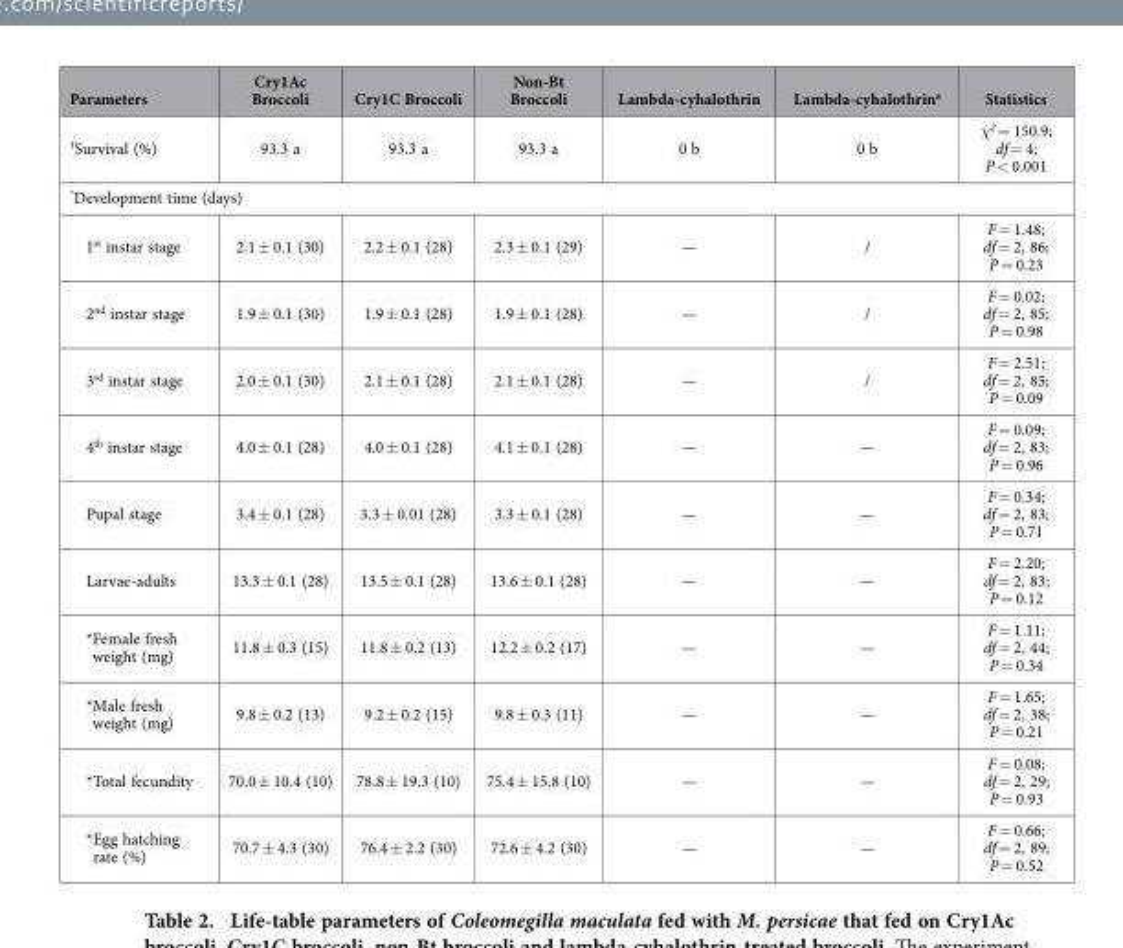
<table><thead><tr><td>Parameters</td><td>Cry1Ac Broccoli</td><td>Cry1C Broccoli</td><td>Non-Bt Broccoli</td><td>Lambda-cyhalothrin</td><td>Lambda-cyhalothrin<sup>a</sup></td><td>Statistics</td></tr></thead><tbody><tr><td><sup>†</sup>Survival (%)</td><td>93.3 a</td><td>93.3 a</td><td>93.3 a</td><td>0 b</td><td>0 b</td><td>χ<sup>2</sup> = 150.9; df = 4; P &lt; 0.001</td></tr><tr><td colspan="7">*Development time (days)</td></tr><tr><td>1<sup>st</sup> instar stage</td><td>2.1 ± 0.1 (30)</td><td>2.2 ± 0.1 (28)</td><td>2.3 ± 0.1 (29)</td><td>—</td><td>/</td><td>F = 1.48; df = 2, 86; P = 0.23</td></tr><tr><td>2<sup>nd</sup> instar stage</td><td>1.9 ± 0.1 (30)</td><td>1.9 ± 0.1 (28)</td><td>1.9 ± 0.1 (28)</td><td>—</td><td>/</td><td>F = 0.02; df = 2, 85; P = 0.98</td></tr><tr><td>3<sup>rd</sup> instar stage</td><td>2.0 ± 0.1 (30)</td><td>2.1 ± 0.1 (28)</td><td>2.1 ± 0.1 (28)</td><td>—</td><td>/</td><td>F = 2.51; df = 2, 85; P = 0.09</td></tr><tr><td>4<sup>th</sup> instar stage</td><td>4.0 ± 0.1 (28)</td><td>4.0 ± 0.1 (28)</td><td>4.1 ± 0.1 (28)</td><td>—</td><td>—</td><td>F = 0.09; df = 2, 83; P = 0.96</td></tr><tr><td>Pupal stage</td><td>3.4 ± 0.1 (28)</td><td>3.3 ± 0.01 (28)</td><td>3.3 ± 0.1 (28)</td><td>—</td><td>—</td><td>F = 0.34; df = 2, 83; P = 0.71</td></tr><tr><td>Larvae-adults</td><td>13.3 ± 0.1 (28)</td><td>13.5 ± 0.1 (28)</td><td>13.6 ± 0.1 (28)</td><td>—</td><td>—</td><td>F = 2.20; df = 2, 83; P = 0.12</td></tr><tr><td>* Female fresh weight (mg)</td><td>11.8 ± 0.3 (15)</td><td>11.8 ± 0.2 (13)</td><td>12.2 ± 0.2 (17)</td><td>—</td><td>—</td><td>F = 1.11; df = 2, 44; P = 0.34</td></tr><tr><td>* Male fresh weight (mg)</td><td>9.8 ± 0.2 (13)</td><td>9.2 ± 0.2 (15)</td><td>9.8 ± 0.3 (11)</td><td>—</td><td>—</td><td>F = 1.65; df = 2, 38; P = 0.21</td></tr><tr><td>*Total fecundity</td><td>70.0 ± 10.4 (10)</td><td>78.8 ± 19.3 (10)</td><td>75.4 ± 15.8 (10)</td><td>—</td><td>—</td><td>F = 0.08; df = 2, 29; P = 0.93</td></tr><tr><td>* Egg hatching rate (%)</td><td>70.7 ± 4.3 (30)</td><td>76.4 ± 2.2 (30)</td><td>72.6 ± 4.2 (30)</td><td>—</td><td>—</td><td>F = 0.66; df = 2, 89; P = 0.52</td></tr></tbody></table>